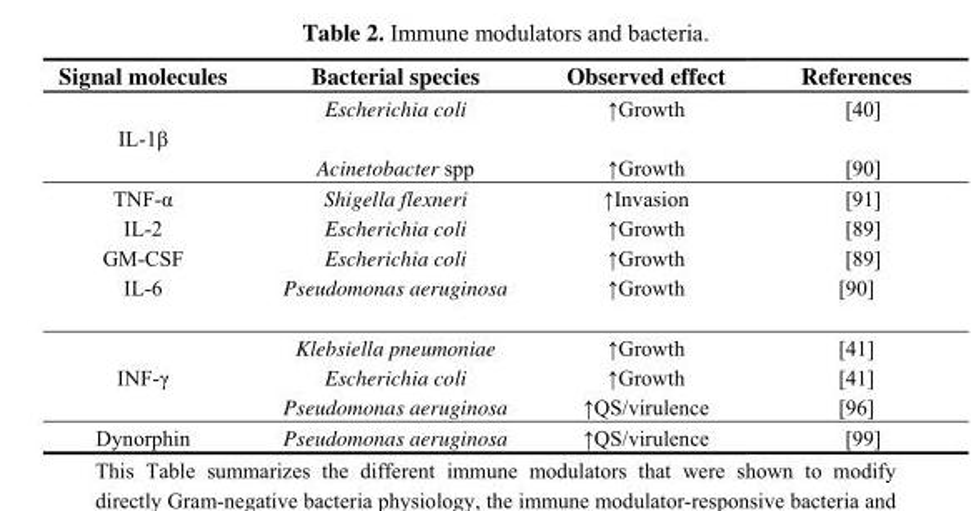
<table><thead><tr><td>Signal molecules</td><td>Bacterial species</td><td>Observed effect</td><td>References</td></tr></thead><tbody><tr><td rowspan="2">IL-1β</td><td>Escherichia coli</td><td>↑Growth</td><td>[40]</td></tr><tr><td>Acinetobacter spp</td><td>↑Growth</td><td>[90]</td></tr><tr><td>TNF-α</td><td>Shigella flexneri</td><td>↑Invasion</td><td>[91]</td></tr><tr><td>IL-2</td><td>Escherichia coli</td><td>↑Growth</td><td>[89]</td></tr><tr><td>GM-CSF</td><td>Escherichia coli</td><td>↑Growth</td><td>[89]</td></tr><tr><td>IL-6</td><td>Pseudomonas aeruginosa</td><td>↑Growth</td><td>[90]</td></tr><tr><td rowspan="3">INF-γ</td><td>Klebsiella pneumoniae</td><td>↑Growth</td><td>[41]</td></tr><tr><td>Escherichia coli</td><td>↑Growth</td><td>[41]</td></tr><tr><td>Pseudomonas aeruginosa</td><td>↑QS/virulence</td><td>[96]</td></tr><tr><td>Dynorphin</td><td>Pseudomonas aeruginosa</td><td>↑QS/virulence</td><td>[99]</td></tr></tbody></table>